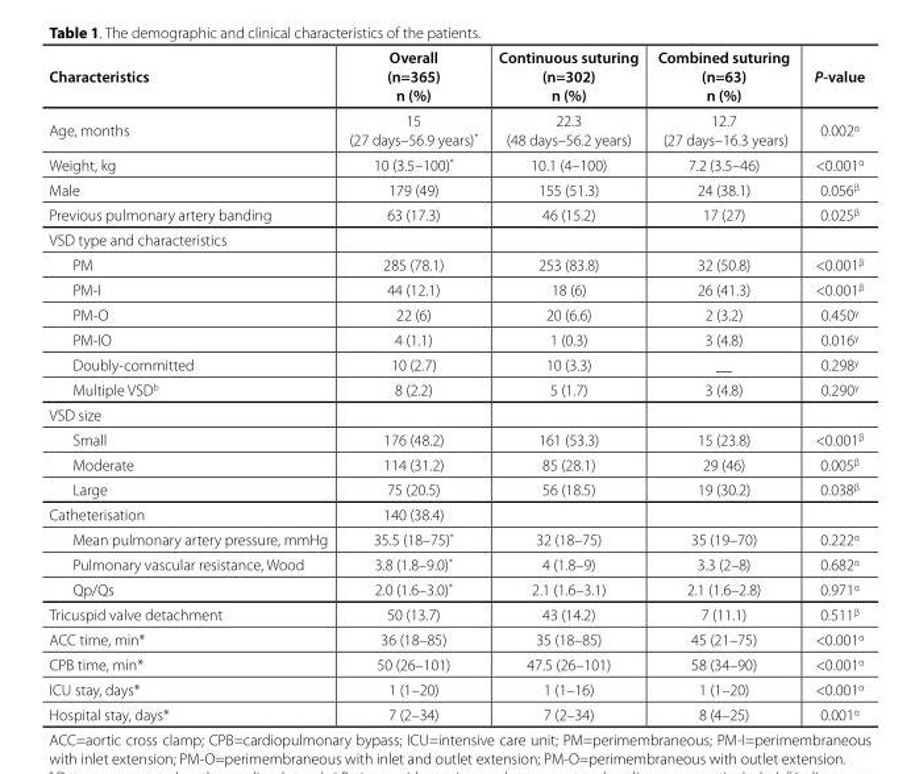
<table><thead><tr><td>Characteristics</td><td>Overall (n=365) n (%)</td><td>Continuous suturing (n=302) n (%)</td><td>Combined suturing (n=63) n (%)</td><td>P-value</td></tr></thead><tbody><tr><td>Age, months</td><td>15 (27 days–56.9 years)*</td><td>22.3 (48 days–56.2 years)</td><td>12.7 (27 days–16.3 years)</td><td>0.002<sup>α</sup></td></tr><tr><td>Weight, kg</td><td>10 (3.5–100)*</td><td>10.1 (4–100)</td><td>7.2 (3.5–46)</td><td>&lt;0.001<sup>α</sup></td></tr><tr><td>Male</td><td>179 (49)</td><td>155 (51.3)</td><td>24 (38.1)</td><td>0.056<sup>β</sup></td></tr><tr><td>Previous pulmonary artery banding</td><td>63 (17.3)</td><td>46 (15.2)</td><td>17 (27)</td><td>0.025<sup>β</sup></td></tr><tr><td colspan="5">VSD type and characteristics</td></tr><tr><td>PM</td><td>285 (78.1)</td><td>253 (83.8)</td><td>32 (50.8)</td><td>&lt;0.001<sup>β</sup></td></tr><tr><td>PM-I</td><td>44 (12.1)</td><td>18 (6)</td><td>26 (41.3)</td><td>&lt;0.001<sup>β</sup></td></tr><tr><td>PM-O</td><td>22 (6)</td><td>20 (6.6)</td><td>2 (3.2)</td><td>0.450<sup>γ</sup></td></tr><tr><td>PM-IO</td><td>4 (1.1)</td><td>1 (0.3)</td><td>3 (4.8)</td><td>0.016<sup>γ</sup></td></tr><tr><td>Doubly-committed</td><td>10 (2.7)</td><td>10 (3.3)</td><td>__</td><td>0.298<sup>γ</sup></td></tr><tr><td>Multiple VSD<sup>b</sup></td><td>8 (2.2)</td><td>5 (1.7)</td><td>3 (4.8)</td><td>0.290<sup>γ</sup></td></tr><tr><td colspan="5">VSD size</td></tr><tr><td>Small</td><td>176 (48.2)</td><td>161 (53.3)</td><td>15 (23.8)</td><td>&lt;0.001<sup>β</sup></td></tr><tr><td>Moderate</td><td>114 (31.2)</td><td>85 (28.1)</td><td>29 (46)</td><td>0.005<sup>β</sup></td></tr><tr><td>Large</td><td>75 (20.5)</td><td>56 (18.5)</td><td>19 (30.2)</td><td>0.038<sup>β</sup></td></tr><tr><td>Catheterisation</td><td>140 (38.4)</td><td></td><td></td><td></td></tr><tr><td>Mean pulmonary artery pressure, mmHg</td><td>35.5 (18–75)*</td><td>32 (18–75)</td><td>35 (19–70)</td><td>0.222<sup>α</sup></td></tr><tr><td>Pulmonary vascular resistance, Wood</td><td>3.8 (1.8–9.0)*</td><td>4 (1.8–9)</td><td>3.3 (2–8)</td><td>0.682<sup>α</sup></td></tr><tr><td>Qp/Qs</td><td>2.0 (1.6–3.0)*</td><td>2.1 (1.6–3.1)</td><td>2.1 (1.6–2.8)</td><td>0.971<sup>α</sup></td></tr><tr><td>Tricuspid valve detachment</td><td>50 (13.7)</td><td>43 (14.2)</td><td>7 (11.1)</td><td>0.511<sup>β</sup></td></tr><tr><td>ACC time, min*</td><td>36 (18–85)</td><td>35 (18–85)</td><td>45 (21–75)</td><td>&lt;0.001<sup>α</sup></td></tr><tr><td>CPB time, min*</td><td>50 (26–101)</td><td>47.5 (26–101)</td><td>58 (34–90)</td><td>&lt;0.001<sup>α</sup></td></tr><tr><td>ICU stay, days*</td><td>1 (1–20)</td><td>1 (1–16)</td><td>1 (1–20)</td><td>&lt;0.001<sup>α</sup></td></tr><tr><td>Hospital stay, days*</td><td>7 (2–34)</td><td>7 (2–34)</td><td>8 (4–25)</td><td>0.001<sup>α</sup></td></tr></tbody></table>